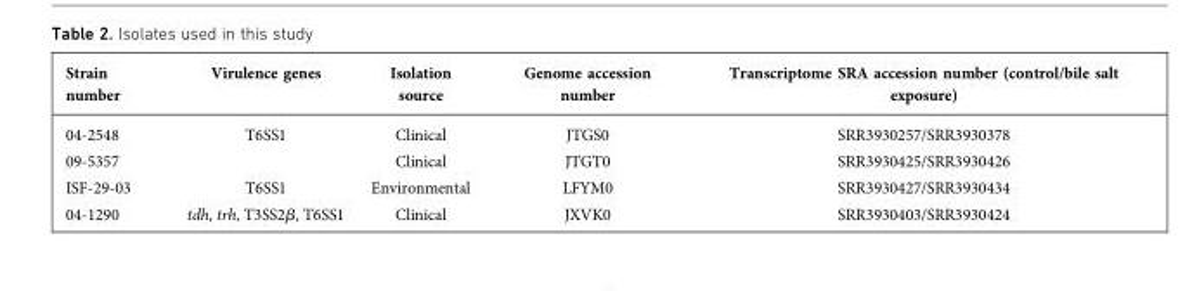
<table><thead><tr><td>Strain number</td><td>Virulence genes</td><td>Isolation source</td><td>Genome accession number</td><td>Transcriptome SRA accession number (control/bile salt exposure)</td></tr></thead><tbody><tr><td>04-2548</td><td>T6SS1</td><td>Clinical</td><td>JTGS0</td><td>SRR3930257/SRR3930378</td></tr><tr><td>09-5357</td><td></td><td>Clinical</td><td>JTGT0</td><td>SRR3930425/SRR3930426</td></tr><tr><td>ISF-29-03</td><td>T6SS1</td><td>Environmental</td><td>LFYM0</td><td>SRR3930427/SRR3930434</td></tr><tr><td>04-1290</td><td>tdh, trh, T3SS2β, T6SS1</td><td>Clinical</td><td>JXVK0</td><td>SRR3930403/SRR3930424</td></tr></tbody></table>